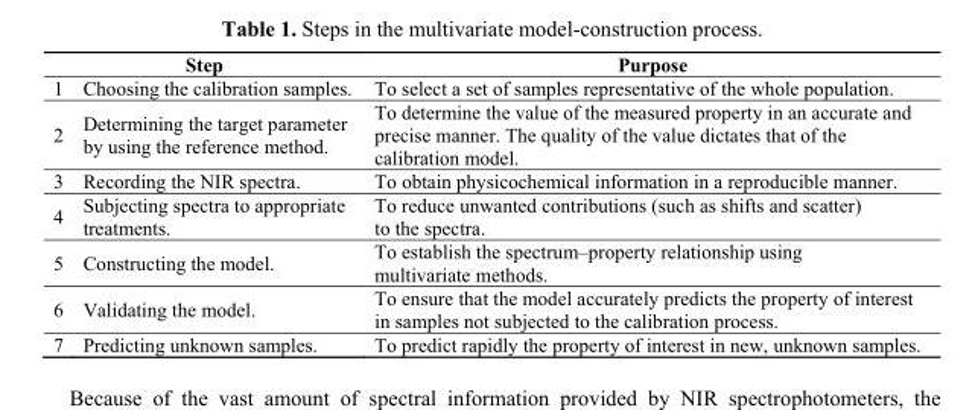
<table><thead><tr><td colspan="2">Step</td><td rowspan="2">Purpose To select a set of samples representative of the whole population.</td></tr><tr><td>1</td><td>Choosing the calibration samples.</td></tr></thead><tbody><tr><td>2</td><td>Determining the target parameter by using the reference method.</td><td>To determine the value of the measured property in an accurate and precise manner. The quality of the value dictates that of the calibration model.</td></tr><tr><td>3</td><td>Recording the NIR spectra.</td><td>To obtain physicochemical information in a reproducible manner.</td></tr><tr><td>4</td><td>Subjecting spectra to appropriate treatments.</td><td>To reduce unwanted contributions (such as shifts and scatter) to the spectra.</td></tr><tr><td>5</td><td>Constructing the model.</td><td>To establish the spectrum–property relationship using multivariate methods.</td></tr><tr><td>6</td><td>Validating the model.</td><td>To ensure that the model accurately predicts the property of interest in samples not subjected to the calibration process.</td></tr><tr><td>7</td><td>Predicting unknown samples.</td><td>To predict rapidly the property of interest in new, unknown samples.</td></tr></tbody></table>